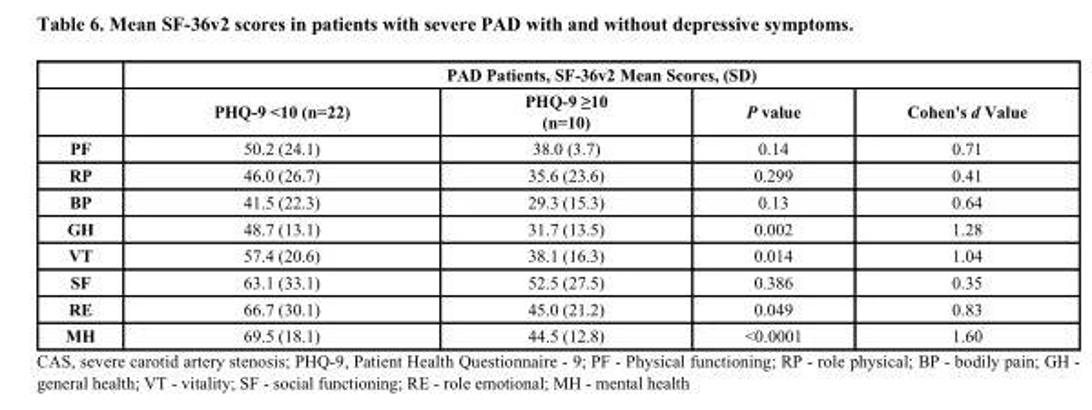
<table><thead><tr><td rowspan="2"></td><td colspan="4">PAD Patients, SF-36v2 Mean Scores, (SD)</td></tr><tr><td>PHQ-9 &lt;10 (n=22)</td><td>PHQ-9 ≥10 (n=10)</td><td>P value</td><td>Cohen&#x27;s d Value</td></tr></thead><tbody><tr><td>PF</td><td>50.2 (24.1)</td><td>38.0 (3.7)</td><td>0.14</td><td>0.71</td></tr><tr><td>RP</td><td>46.0 (26.7)</td><td>35.6 (23.6)</td><td>0.299</td><td>0.41</td></tr><tr><td>BP</td><td>41.5 (22.3)</td><td>29.3 (15.3)</td><td>0.13</td><td>0.64</td></tr><tr><td>GH</td><td>48.7 (13.1)</td><td>31.7 (13.5)</td><td>0.002</td><td>1.28</td></tr><tr><td>VT</td><td>57.4 (20.6)</td><td>38.1 (16.3)</td><td>0.014</td><td>1.04</td></tr><tr><td>SF</td><td>63.1 (33.1)</td><td>52.5 (27.5)</td><td>0.386</td><td>0.35</td></tr><tr><td>RE</td><td>66.7 (30.1)</td><td>45.0 (21.2)</td><td>0.049</td><td>0.83</td></tr><tr><td>MH</td><td>69.5 (18.1)</td><td>44.5 (12.8)</td><td>&lt;0.0001</td><td>1.60</td></tr></tbody></table>